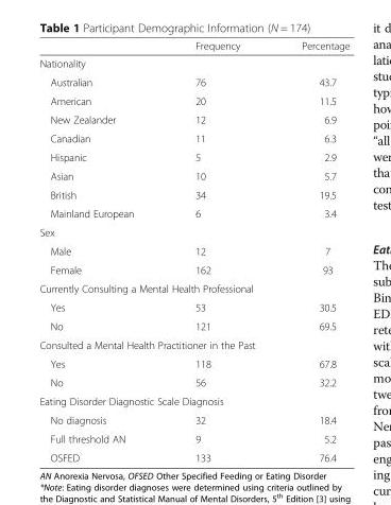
<table><thead><tr><td></td><td>Frequency</td><td>Percentage</td></tr></thead><tbody><tr><td colspan="3">Nationality</td></tr><tr><td>Australian</td><td>76</td><td>43.7</td></tr><tr><td>American</td><td>20</td><td>11.5</td></tr><tr><td>New Zealander</td><td>12</td><td>6.9</td></tr><tr><td>Canadian</td><td>11</td><td>6.3</td></tr><tr><td>Hispanic</td><td>5</td><td>2.9</td></tr><tr><td>Asian</td><td>10</td><td>5.7</td></tr><tr><td>British</td><td>34</td><td>19.5</td></tr><tr><td>Mainland European</td><td>6</td><td>3.4</td></tr><tr><td colspan="3">Sex</td></tr><tr><td>Male</td><td>12</td><td>7</td></tr><tr><td>Female</td><td>162</td><td>93</td></tr><tr><td colspan="3">Currently Consulting a Mental Health Professional</td></tr><tr><td>Yes</td><td>53</td><td>30.5</td></tr><tr><td>No</td><td>121</td><td>69.5</td></tr><tr><td colspan="3">Consulted a Mental Health Practitioner in the Past</td></tr><tr><td>Yes</td><td>118</td><td>67.8</td></tr><tr><td>No</td><td>56</td><td>32.2</td></tr><tr><td colspan="3">Eating Disorder Diagnostic Scale Diagnosis</td></tr><tr><td>No diagnosis</td><td>32</td><td>18.4</td></tr><tr><td>Full threshold AN</td><td>9</td><td>5.2</td></tr><tr><td>OSFED</td><td>133</td><td>76.4</td></tr></tbody></table>